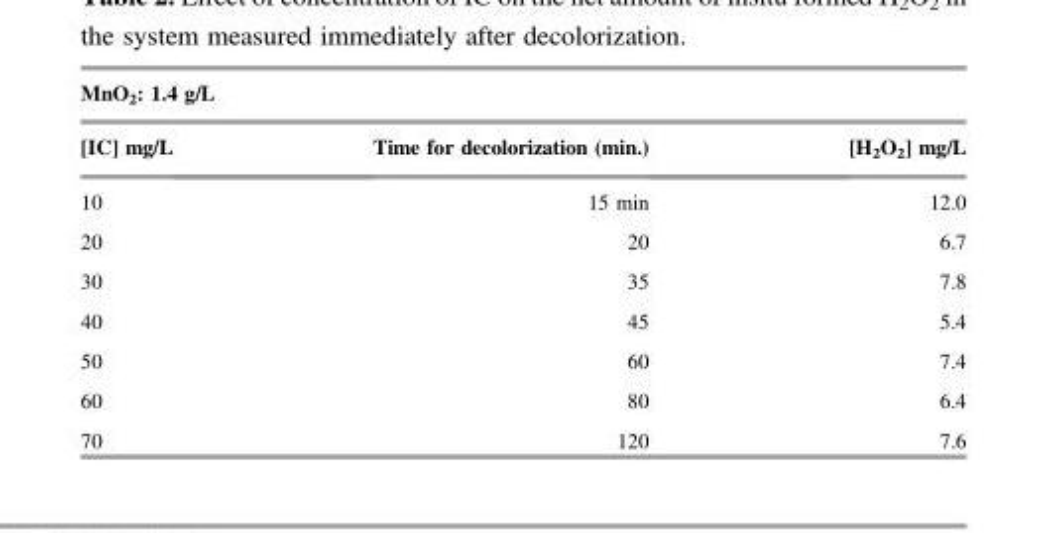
<table><thead><tr><td colspan="3">MnO<sub>2</sub>: 1.4 g/L</td></tr><tr><td>[IC] mg/L</td><td>Time for decolorization (min.)</td><td>[H<sub>2</sub>O<sub>2</sub>] mg/L</td></tr></thead><tbody><tr><td>10</td><td>15 min</td><td>12.0</td></tr><tr><td>20</td><td>20</td><td>6.7</td></tr><tr><td>30</td><td>35</td><td>7.8</td></tr><tr><td>40</td><td>45</td><td>5.4</td></tr><tr><td>50</td><td>60</td><td>7.4</td></tr><tr><td>60</td><td>80</td><td>6.4</td></tr><tr><td>70</td><td>120</td><td>7.6</td></tr></tbody></table>